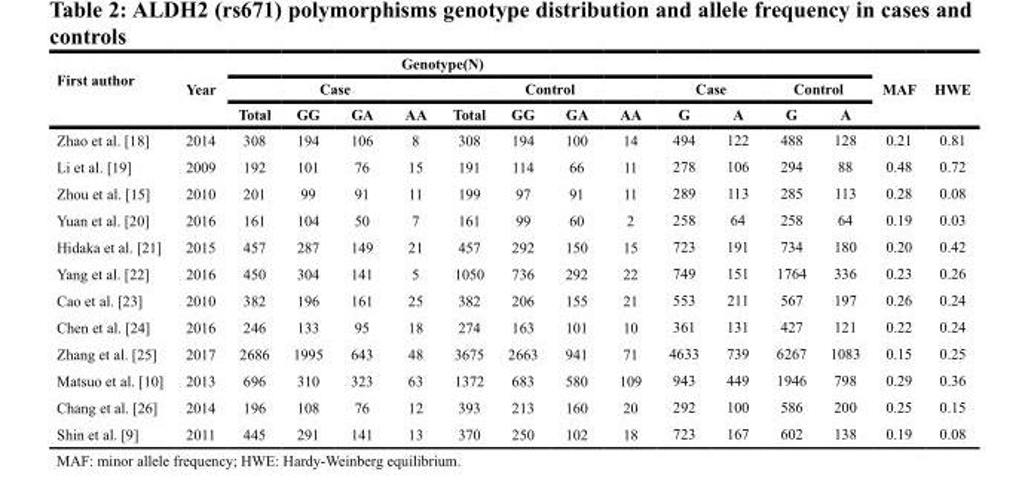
<table><thead><tr><td rowspan="3">First author</td><td rowspan="3">Year</td><td colspan="8">Genotype(N)</td><td></td><td></td><td></td><td></td><td rowspan="3">MAF</td><td rowspan="3">HWE</td></tr><tr><td colspan="4">Case</td><td colspan="4">Control</td><td colspan="2">Case</td><td colspan="2">Control</td></tr><tr><td>Total</td><td>GG</td><td>GA</td><td>AA</td><td>Total</td><td>GG</td><td>GA</td><td>AA</td><td>G</td><td>A</td><td>G</td><td>A</td></tr></thead><tbody><tr><td>Zhao et al. [18]</td><td>2014</td><td>308</td><td>194</td><td>106</td><td>8</td><td>308</td><td>194</td><td>100</td><td>14</td><td>494</td><td>122</td><td>488</td><td>128</td><td>0.21</td><td>0.81</td></tr><tr><td>Li et al. [19]</td><td>2009</td><td>192</td><td>101</td><td>76</td><td>15</td><td>191</td><td>114</td><td>66</td><td>11</td><td>278</td><td>106</td><td>294</td><td>88</td><td>0.48</td><td>0.72</td></tr><tr><td>Zhou et al. [15]</td><td>2010</td><td>201</td><td>99</td><td>91</td><td>11</td><td>199</td><td>97</td><td>91</td><td>11</td><td>289</td><td>113</td><td>285</td><td>113</td><td>0.28</td><td>0.08</td></tr><tr><td>Yuan et al. [20]</td><td>2016</td><td>161</td><td>104</td><td>50</td><td>7</td><td>161</td><td>99</td><td>60</td><td>2</td><td>258</td><td>64</td><td>258</td><td>64</td><td>0.19</td><td>0.03</td></tr><tr><td>Hidaka et al. [21]</td><td>2015</td><td>457</td><td>287</td><td>149</td><td>21</td><td>457</td><td>292</td><td>150</td><td>15</td><td>723</td><td>191</td><td>734</td><td>180</td><td>0.20</td><td>0.42</td></tr><tr><td>Yang et al. [22]</td><td>2016</td><td>450</td><td>304</td><td>141</td><td>5</td><td>1050</td><td>736</td><td>292</td><td>22</td><td>749</td><td>151</td><td>1764</td><td>336</td><td>0.23</td><td>0.26</td></tr><tr><td>Cao et al. [23]</td><td>2010</td><td>382</td><td>196</td><td>161</td><td>25</td><td>382</td><td>206</td><td>155</td><td>21</td><td>553</td><td>211</td><td>567</td><td>197</td><td>0.26</td><td>0.24</td></tr><tr><td>Chen et al. [24]</td><td>2016</td><td>246</td><td>133</td><td>95</td><td>18</td><td>274</td><td>163</td><td>101</td><td>10</td><td>361</td><td>131</td><td>427</td><td>121</td><td>0.22</td><td>0.24</td></tr><tr><td>Zhang et al. [25]</td><td>2017</td><td>2686</td><td>1995</td><td>643</td><td>48</td><td>3675</td><td>2663</td><td>941</td><td>71</td><td>4633</td><td>739</td><td>6267</td><td>1083</td><td>0.15</td><td>0.25</td></tr><tr><td>Matsuo et al. [10]</td><td>2013</td><td>696</td><td>310</td><td>323</td><td>63</td><td>1372</td><td>683</td><td>580</td><td>109</td><td>943</td><td>449</td><td>1946</td><td>798</td><td>0.29</td><td>0.36</td></tr><tr><td>Chang et al. [26]</td><td>2014</td><td>196</td><td>108</td><td>76</td><td>12</td><td>393</td><td>213</td><td>160</td><td>20</td><td>292</td><td>100</td><td>586</td><td>200</td><td>0.25</td><td>0.15</td></tr><tr><td>Shin et al. [9]</td><td>2011</td><td>445</td><td>291</td><td>141</td><td>13</td><td>370</td><td>250</td><td>102</td><td>18</td><td>723</td><td>167</td><td>602</td><td>138</td><td>0.19</td><td>0.08</td></tr></tbody></table>